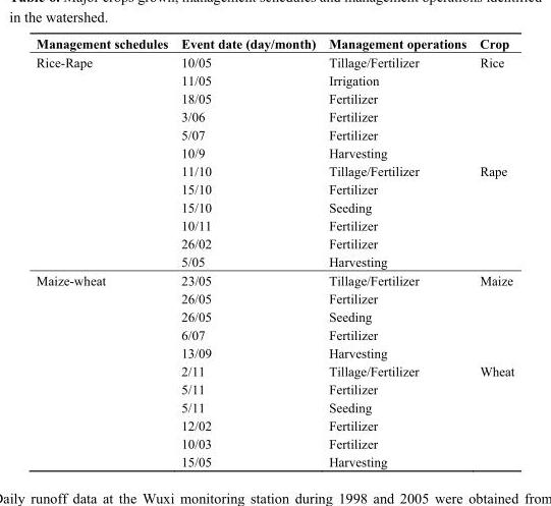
<table><thead><tr><td>Management schedules</td><td>Event date (day/month)</td><td>Management operations</td><td>Crop</td></tr></thead><tbody><tr><td rowspan="12">Rice-Rape</td><td>10/05</td><td>Tillage/Fertilizer</td><td>Rice</td></tr><tr><td>11/05</td><td>Irrigation</td><td></td></tr><tr><td>18/05</td><td>Fertilizer</td><td></td></tr><tr><td>3/06</td><td>Fertilizer</td><td></td></tr><tr><td>5/07</td><td>Fertilizer</td><td></td></tr><tr><td>10/9</td><td>Harvesting</td><td></td></tr><tr><td>11/10</td><td>Tillage/Fertilizer</td><td>Rape</td></tr><tr><td>15/10</td><td>Fertilizer</td><td></td></tr><tr><td>15/10</td><td>Seeding</td><td></td></tr><tr><td>10/11</td><td>Fertilizer</td><td></td></tr><tr><td>26/02</td><td>Fertilizer</td><td></td></tr><tr><td>5/05</td><td>Harvesting</td><td></td></tr><tr><td rowspan="11">Maize-wheat</td><td>23/05</td><td>Tillage/Fertilizer</td><td>Maize</td></tr><tr><td>26/05</td><td>Fertilizer</td><td></td></tr><tr><td>26/05</td><td>Seeding</td><td></td></tr><tr><td>6/07</td><td>Fertilizer</td><td></td></tr><tr><td>13/09</td><td>Harvesting</td><td></td></tr><tr><td>2/11</td><td>Tillage/Fertilizer</td><td>Wheat</td></tr><tr><td>5/11</td><td>Fertilizer</td><td></td></tr><tr><td>5/11</td><td>Seeding</td><td></td></tr><tr><td>12/02</td><td>Fertilizer</td><td></td></tr><tr><td>10/03</td><td>Fertilizer</td><td></td></tr><tr><td>15/05</td><td>Harvesting</td><td></td></tr></tbody></table>